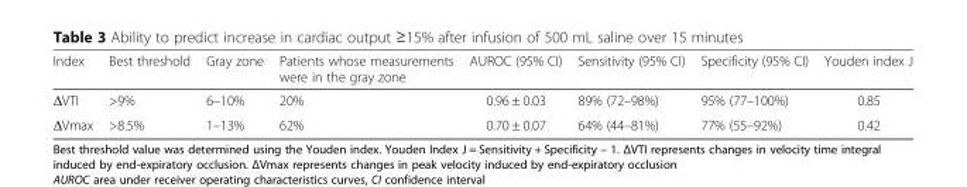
<table><thead><tr><td>Index</td><td>Best threshold</td><td>Gray zone</td><td>Patients whose measurements were in the gray zone</td><td>AUROC (95% CI)</td><td>Sensitivity (95% CI)</td><td>Specificity (95% CI)</td><td>Youden index J</td></tr></thead><tbody><tr><td>ΔVTI</td><td>&gt;9%</td><td>6–10%</td><td>20%</td><td>0.96 ± 0.03</td><td>89% (72–98%)</td><td>95% (77–100%)</td><td>0.85</td></tr><tr><td>ΔVmax</td><td>&gt;8.5%</td><td>1–13%</td><td>62%</td><td>0.70 ± 0.07</td><td>64% (44–81%)</td><td>77% (55–92%)</td><td>0.42</td></tr></tbody></table>